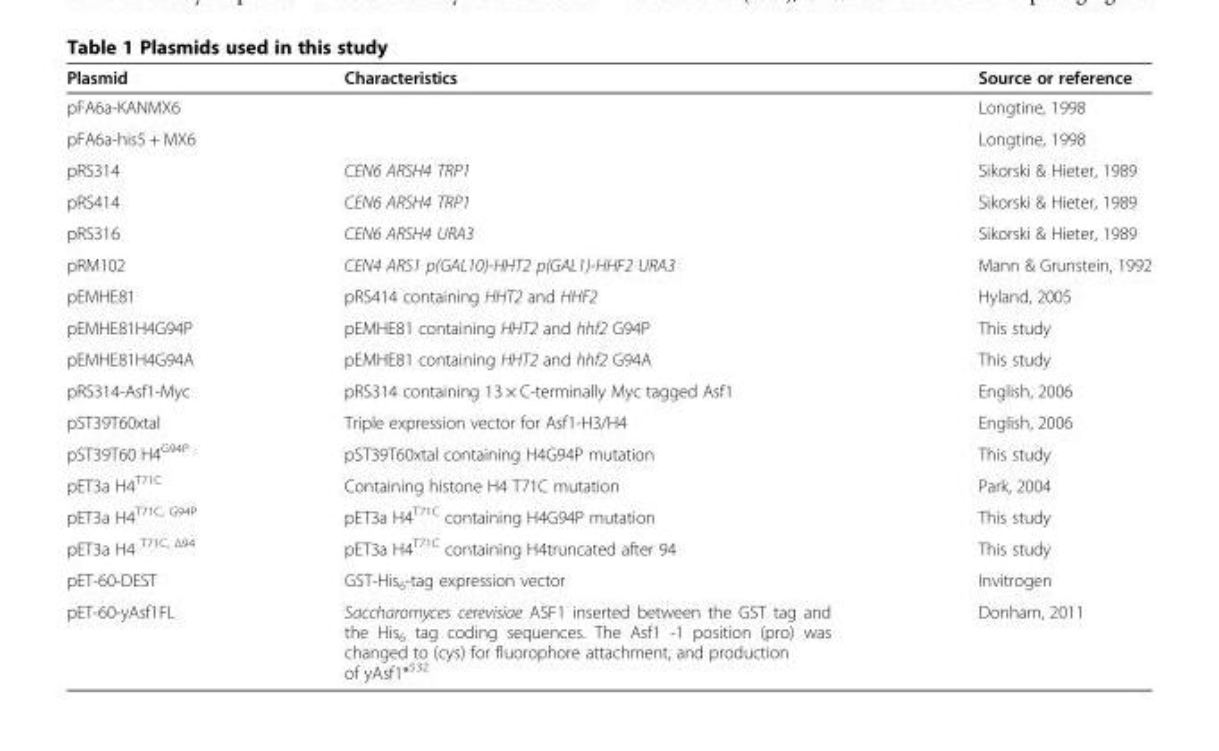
<table><thead><tr><td>Plasmid</td><td>Characteristics</td><td>Source or reference</td></tr></thead><tbody><tr><td>pFA6a-KANMX6</td><td></td><td>Longtine, 1998</td></tr><tr><td>pFA6a-his5 + MX6</td><td></td><td>Longtine, 1998</td></tr><tr><td>pRS314</td><td>CEN6 ARSH4 TRP1</td><td>Sikorski &amp; Hieter, 1989</td></tr><tr><td>pRS414</td><td>CEN6 ARSH4 TRP1</td><td>Sikorski &amp; Hieter, 1989</td></tr><tr><td>pRS316</td><td>CEN6 ARSH4 URA3</td><td>Sikorski &amp; Hieter, 1989</td></tr><tr><td>pRM102</td><td>CEN4 ARS1 p(GAL10)-HHT2 p(GAL1)-HHF2 URA3</td><td>Mann &amp; Grunstein, 1992</td></tr><tr><td>pEMHE81</td><td>pRS414 containing HHT2 and HHF2</td><td>Hyland, 2005</td></tr><tr><td>pEMHE81H4G94P</td><td>pEMHE81 containing HHT2 and hhf2 G94P</td><td>This study</td></tr><tr><td>pEMHE81H4G94A</td><td>pEMHE81 containing HHT2 and hhf2 G94A</td><td>This study</td></tr><tr><td>pRS314-Asf1-Myc</td><td>pRS314 containing 13 × C-terminally Myc tagged Asf1</td><td>English, 2006</td></tr><tr><td>pST39T60xtal</td><td>Triple expression vector for Asf1-H3/H4</td><td>English, 2006</td></tr><tr><td>pST39T60 H4<sup>G94P</sup></td><td>pST39T60xtal containing H4G94P mutation</td><td>This study</td></tr><tr><td>pET3a H4<sup>T71C</sup></td><td>Containing histone H4 T71C mutation</td><td>Park, 2004</td></tr><tr><td>pET3a H4<sup>T71C, G94P</sup></td><td>pET3a H4<sup>T71C</sup> containing H4G94P mutation</td><td>This study</td></tr><tr><td>pET3a H4 T71C, Δ94</td><td>pET3a H4<sup>T71C</sup> containing H4truncated after 94</td><td>This study</td></tr><tr><td>pET-60-DEST</td><td>GST-His<sub>6</sub>-tag expression vector</td><td>Invitrogen</td></tr><tr><td>pET-60-yAsf1FL</td><td>Saccharomyces cerevisiae ASF1 inserted between the GST tag and the His<sub>6</sub> tag coding sequences. The Asf1 -1 position (pro) was changed to (cys) for fluorophore attachment, and production of yAsf1*<sup>532</sup></td><td>Donham, 2011</td></tr></tbody></table>